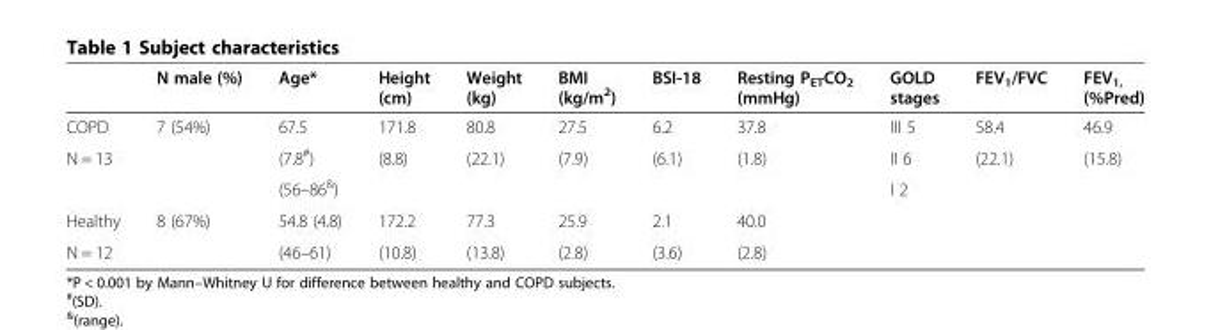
<table><thead><tr><td></td><td>N male (%)</td><td>Age*</td><td>Height (cm)</td><td>Weight (kg)</td><td>BMI (kg/m<sup>2</sup>)</td><td>BSI-18</td><td>Resting P<sub>ET</sub>CO<sub>2</sub> (mmHg)</td><td>GOLD stages</td><td>FEV<sub>1</sub>/FVC</td><td>FEV<sub>1,</sub> (%Pred)</td></tr></thead><tbody><tr><td>COPD</td><td>7 (54%)</td><td>67.5</td><td>171.8</td><td>80.8</td><td>27.5</td><td>6.2</td><td>37.8</td><td>III 5</td><td>58.4</td><td>46.9</td></tr><tr><td rowspan="2">N = 13</td><td></td><td>(7.8<sup>#</sup>)</td><td>(8.8)</td><td>(22.1)</td><td>(7.9)</td><td>(6.1)</td><td>(1.8)</td><td>II 6</td><td>(22.1)</td><td>(15.8)</td></tr><tr><td></td><td>(56–86<sup>&amp;</sup>)</td><td></td><td></td><td></td><td></td><td></td><td>I 2</td><td></td><td></td></tr><tr><td>Healthy</td><td>8 (67%)</td><td>54.8 (4.8)</td><td>172.2</td><td>77.3</td><td>25.9</td><td>2.1</td><td>40.0</td><td></td><td></td><td></td></tr><tr><td>N = 12</td><td></td><td>(46–61)</td><td>(10.8)</td><td>(13.8)</td><td>(2.8)</td><td>(3.6)</td><td>(2.8)</td><td></td><td></td><td></td></tr></tbody></table>